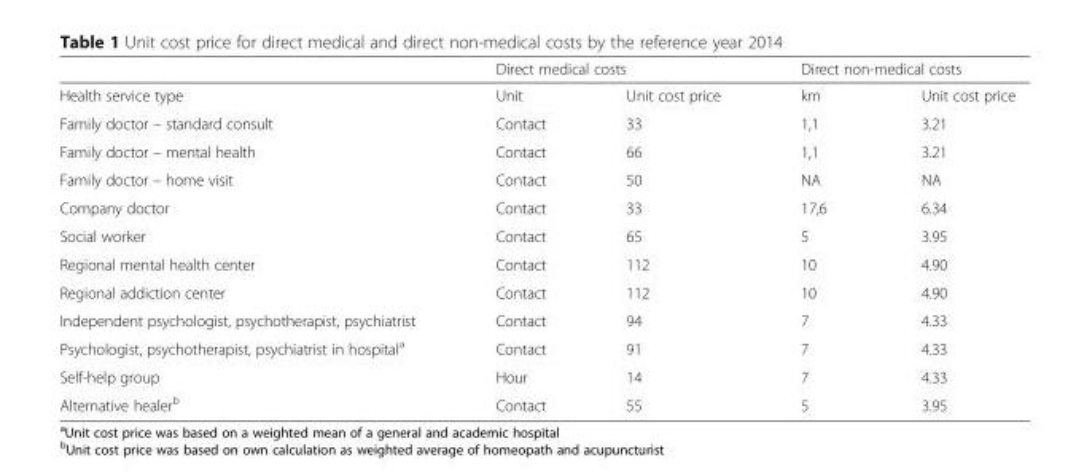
<table><thead><tr><td rowspan="2">Health service type</td><td colspan="2">Direct medical costs</td><td colspan="2">Direct non-medical costs</td></tr><tr><td>Unit</td><td>Unit cost price</td><td>km</td><td>Unit cost price</td></tr></thead><tbody><tr><td>Family doctor – standard consult</td><td>Contact</td><td>33</td><td>1,1</td><td>3.21</td></tr><tr><td>Family doctor – mental health</td><td>Contact</td><td>66</td><td>1,1</td><td>3.21</td></tr><tr><td>Family doctor – home visit</td><td>Contact</td><td>50</td><td>NA</td><td>NA</td></tr><tr><td>Company doctor</td><td>Contact</td><td>33</td><td>17,6</td><td>6.34</td></tr><tr><td>Social worker</td><td>Contact</td><td>65</td><td>5</td><td>3.95</td></tr><tr><td>Regional mental health center</td><td>Contact</td><td>112</td><td>10</td><td>4.90</td></tr><tr><td>Regional addiction center</td><td>Contact</td><td>112</td><td>10</td><td>4.90</td></tr><tr><td>Independent psychologist, psychotherapist, psychiatrist</td><td>Contact</td><td>94</td><td>7</td><td>4.33</td></tr><tr><td>Psychologist, psychotherapist, psychiatrist in hospital<sup>a</sup></td><td>Contact</td><td>91</td><td>7</td><td>4.33</td></tr><tr><td>Self-help group</td><td>Hour</td><td>14</td><td>7</td><td>4.33</td></tr><tr><td>Alternative healer<sup>b</sup></td><td>Contact</td><td>55</td><td>5</td><td>3.95</td></tr></tbody></table>